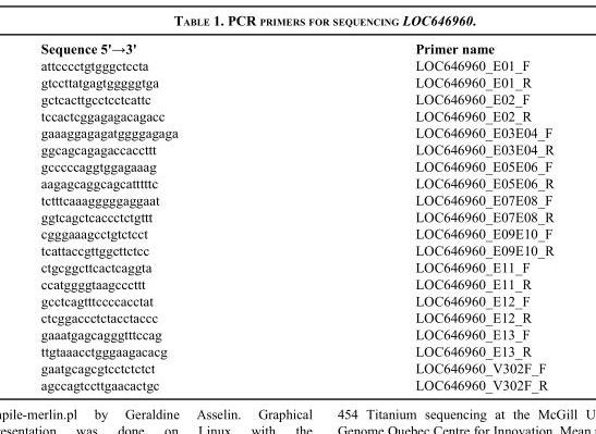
<table><thead><tr><td>Sequence 5&#x27;→3&#x27;</td><td>Primer name</td></tr></thead><tbody><tr><td>attcccctgtgggctccta</td><td>LOC646960_E01_F</td></tr><tr><td>gtccttatgagtgggggtga</td><td>LOC646960_E01_R</td></tr><tr><td>gctcacttgcctcctcattc</td><td>LOC646960_E02_F</td></tr><tr><td>tccactcggagagacagacc</td><td>LOC646960_E02_R</td></tr><tr><td>gaaaggagagatggggagaga</td><td>LOC646960_E03E04_F</td></tr><tr><td>ggcagcagagaccaccttt</td><td>LOC646960_E03E04_R</td></tr><tr><td>gcccccaggtggagaaag</td><td>LOC646960_E05E06_F</td></tr><tr><td>aagagcaggcagcatttttc</td><td>LOC646960_E05E06_R</td></tr><tr><td>tctttcaaagggggaggaat</td><td>LOC646960_E07E08_F</td></tr><tr><td>ggtcagctcaccctctgttt</td><td>LOC646960_E07E08_R</td></tr><tr><td>cgggaaagcctgtctcct</td><td>LOC646960_E09E10_F</td></tr><tr><td>tcattaccgttggcttctcc</td><td>LOC646960_E09E10_R</td></tr><tr><td>ctgcggcttcactcaggta</td><td>LOC646960_E11_F</td></tr><tr><td>ccatggggtaagcccttt</td><td>LOC646960_E11_R</td></tr><tr><td>gcctcagtttccccacctat</td><td>LOC646960_E12_F</td></tr><tr><td>ctcggaccctctacctaccc</td><td>LOC646960_E12_R</td></tr><tr><td>gaaatgagcagggtttccag</td><td>LOC646960_E13_F</td></tr><tr><td>ttgtaaacctgggaagacacg</td><td>LOC646960_E13_R</td></tr><tr><td>gaatgcagcgtcctctctct</td><td>LOC646960_V302F_F</td></tr><tr><td>agccagtccttgaacactgc</td><td>LOC646960_V302F_R</td></tr></tbody></table>